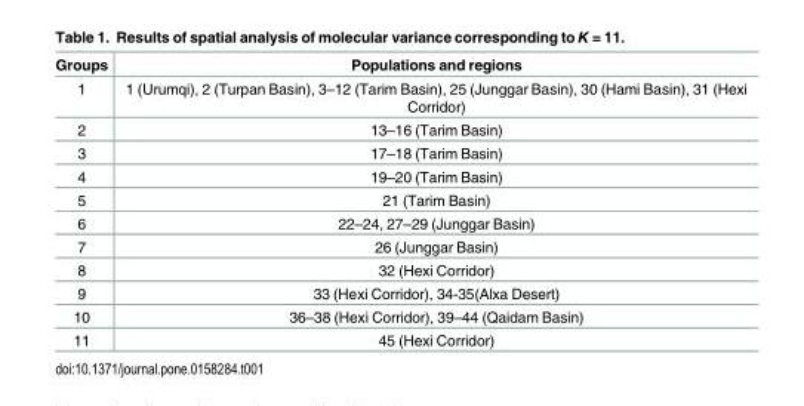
<table><thead><tr><td>Groups</td><td>Populations and regions</td></tr></thead><tbody><tr><td>1</td><td>1 (Urumqi), 2 (Turpan Basin), 3–12 (Tarim Basin), 25 (Junggar Basin), 30 (Hami Basin), 31 (Hexi Corridor)</td></tr><tr><td>2</td><td>13–16 (Tarim Basin)</td></tr><tr><td>3</td><td>17–18 (Tarim Basin)</td></tr><tr><td>4</td><td>19–20 (Tarim Basin)</td></tr><tr><td>5</td><td>21 (Tarim Basin)</td></tr><tr><td>6</td><td>22–24, 27–29 (Junggar Basin)</td></tr><tr><td>7</td><td>26 (Junggar Basin)</td></tr><tr><td>8</td><td>32 (Hexi Corridor)</td></tr><tr><td>9</td><td>33 (Hexi Corridor), 34-35(Alxa Desert)</td></tr><tr><td>10</td><td>36–38 (Hexi Corridor), 39–44 (Qaidam Basin)</td></tr><tr><td>11</td><td>45 (Hexi Corridor)</td></tr></tbody></table>